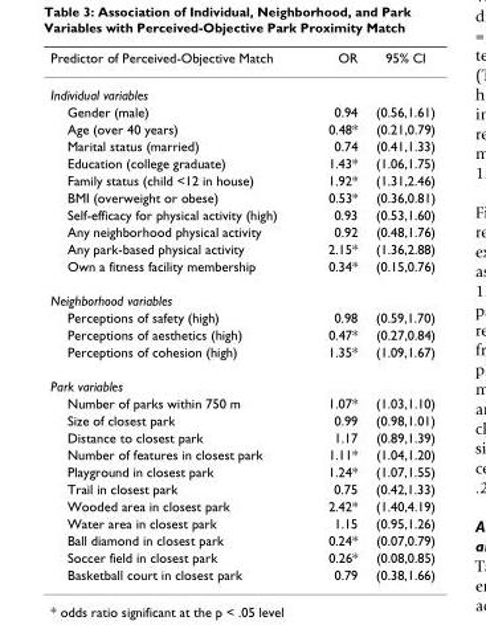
<table><thead><tr><td>Predictor of Perceived-Objective Match</td><td>OR</td><td>95% CI</td></tr></thead><tbody><tr><td colspan="3">Individual variables</td></tr><tr><td>Gender (male)</td><td>0.94</td><td>(0.56,1.61)</td></tr><tr><td>Age (over 40 years)</td><td>0.48*</td><td>(0.21,0.79)</td></tr><tr><td>Marital status (married)</td><td>0.74</td><td>(0.41,1.33)</td></tr><tr><td>Education (college graduate)</td><td>1.43*</td><td>(1.06,1.75)</td></tr><tr><td>Family status (child &lt;12 in house)</td><td>1.92*</td><td>(1.31,2.46)</td></tr><tr><td>BMI (overweight or obese)</td><td>0.53*</td><td>(0.36,0.81)</td></tr><tr><td>Self-efficacy for physical activity (high)</td><td>0.93</td><td>(0.53,1.60)</td></tr><tr><td>Any neighborhood physical activity</td><td>0.92</td><td>(0.48,1.76)</td></tr><tr><td>Any park-based physical activity</td><td>2.15*</td><td>(1.36,2.88)</td></tr><tr><td>Own a fitness facility membership</td><td>0.34*</td><td>(0.15,0.76)</td></tr><tr><td colspan="3">Neighborhood variables</td></tr><tr><td>Perceptions of safety (high)</td><td>0.98</td><td>(0.59,1.70)</td></tr><tr><td>Perceptions of aesthetics (high)</td><td>0.47*</td><td>(0.27,0.84)</td></tr><tr><td>Perceptions of cohesion (high)</td><td>1.35*</td><td>(1.09,1.67)</td></tr><tr><td colspan="3">Park variables</td></tr><tr><td>Number of parks within 750 m</td><td>1.07*</td><td>(1.03,1.10)</td></tr><tr><td>Size of closest park</td><td>0.99</td><td>(0.98,1.01)</td></tr><tr><td>Distance to closest park</td><td>1.17</td><td>(0.89,1.39)</td></tr><tr><td>Number of features in closest park</td><td>1.11*</td><td>(1.04,1.20)</td></tr><tr><td>Playground in closest park</td><td>1.24*</td><td>(1.07,1.55)</td></tr><tr><td>Trail in closest park</td><td>0.75</td><td>(0.42,1.33)</td></tr><tr><td>Wooded area in closest park</td><td>2.42*</td><td>(1.40,4.19)</td></tr><tr><td>Water area in closest park</td><td>1.15</td><td>(0.95,1.26)</td></tr><tr><td>Ball diamond in closest park</td><td>0.24*</td><td>(0.07,0.79)</td></tr><tr><td>Soccer field in closest park</td><td>0.26*</td><td>(0.08,0.85)</td></tr><tr><td>Basketball court in closest park</td><td>0.79</td><td>(0.38,1.66)</td></tr></tbody></table>